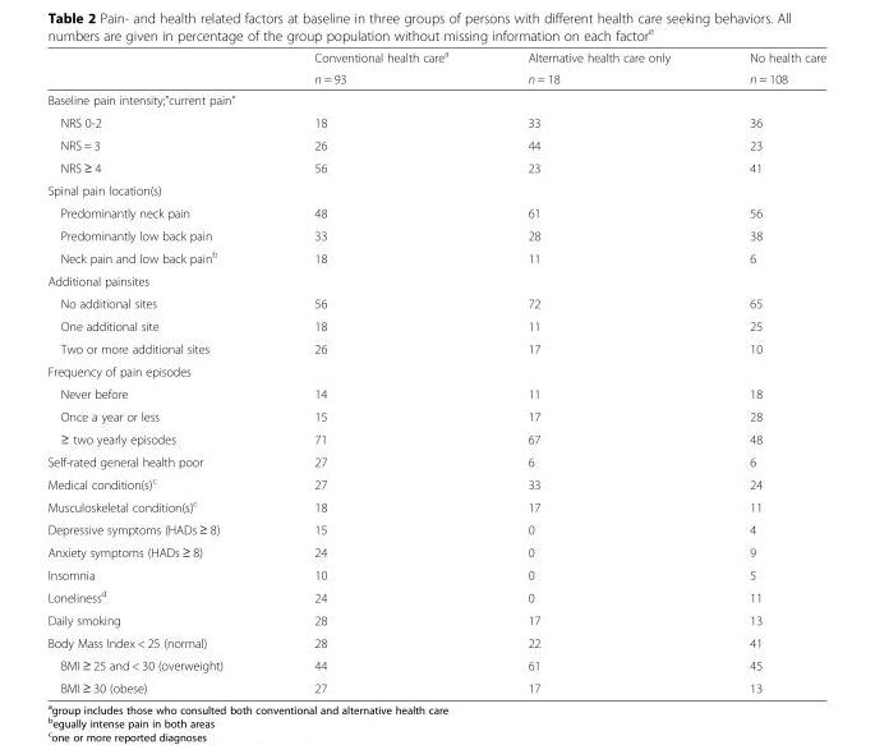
<table><thead><tr><td rowspan="2"></td><td rowspan="2">Conventional health care<sup>a</sup> n = 93</td><td rowspan="2">Alternative health care only n = 18</td><td rowspan="2">No health care n = 108</td></tr><tr></tr></thead><tbody><tr><td colspan="4">Baseline pain intensity;”current pain”</td></tr><tr><td>NRS 0-2</td><td>18</td><td>33</td><td>36</td></tr><tr><td>NRS = 3</td><td>26</td><td>44</td><td>23</td></tr><tr><td>NRS ≥ 4</td><td>56</td><td>23</td><td>41</td></tr><tr><td colspan="4">Spinal pain location(s)</td></tr><tr><td>Predominantly neck pain</td><td>48</td><td>61</td><td>56</td></tr><tr><td>Predominantly low back pain</td><td>33</td><td>28</td><td>38</td></tr><tr><td>Neck pain and low back pain<sup>b</sup></td><td>18</td><td>11</td><td>6</td></tr><tr><td colspan="4">Additional painsites</td></tr><tr><td>No additional sites</td><td>56</td><td>72</td><td>65</td></tr><tr><td>One additional site</td><td>18</td><td>11</td><td>25</td></tr><tr><td>Two or more additional sites</td><td>26</td><td>17</td><td>10</td></tr><tr><td colspan="4">Frequency of pain episodes</td></tr><tr><td>Never before</td><td>14</td><td>11</td><td>18</td></tr><tr><td>Once a year or less</td><td>15</td><td>17</td><td>28</td></tr><tr><td>≥ two yearly episodes</td><td>71</td><td>67</td><td>48</td></tr><tr><td>Self-rated general health poor</td><td>27</td><td>6</td><td>6</td></tr><tr><td>Medical condition(s)<sup>c</sup></td><td>27</td><td>33</td><td>24</td></tr><tr><td>Musculoskeletal condition(s)<sup>c</sup></td><td>18</td><td>17</td><td>11</td></tr><tr><td>Depressive symptoms (HADs ≥ 8)</td><td>15</td><td>0</td><td>4</td></tr><tr><td>Anxiety symptoms (HADs ≥ 8)</td><td>24</td><td>0</td><td>9</td></tr><tr><td>Insomnia</td><td>10</td><td>0</td><td>5</td></tr><tr><td>Loneliness<sup>d</sup></td><td>24</td><td>0</td><td>11</td></tr><tr><td>Daily smoking</td><td>28</td><td>17</td><td>13</td></tr><tr><td>Body Mass Index &lt; 25 (normal)</td><td>28</td><td>22</td><td>41</td></tr><tr><td>BMI ≥ 25 and &lt; 30 (overweight)</td><td>44</td><td>61</td><td>45</td></tr><tr><td>BMI ≥ 30 (obese)</td><td>27</td><td>17</td><td>13</td></tr></tbody></table>